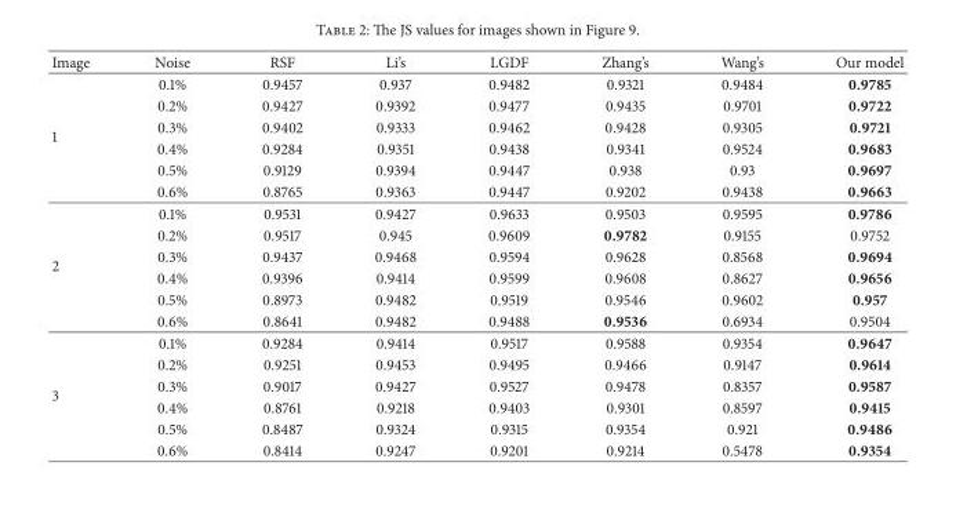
<table><thead><tr><td>Image</td><td>Noise</td><td>RSF</td><td>Li’s</td><td>LGDF</td><td>Zhang’s</td><td>Wang’s</td><td>Our model</td></tr></thead><tbody><tr><td rowspan="6">1</td><td>0.1%</td><td>0.9457</td><td>0.937</td><td>0.9482</td><td>0.9321</td><td>0.9484</td><td>0.9785</td></tr><tr><td>0.2%</td><td>0.9427</td><td>0.9392</td><td>0.9477</td><td>0.9435</td><td>0.9701</td><td>0.9722</td></tr><tr><td>0.3%</td><td>0.9402</td><td>0.9333</td><td>0.9462</td><td>0.9428</td><td>0.9305</td><td>0.9721</td></tr><tr><td>0.4%</td><td>0.9284</td><td>0.9351</td><td>0.9438</td><td>0.9341</td><td>0.9524</td><td>0.9683</td></tr><tr><td>0.5%</td><td>0.9129</td><td>0.9394</td><td>0.9447</td><td>0.938</td><td>0.93</td><td>0.9697</td></tr><tr><td>0.6%</td><td>0.8765</td><td>0.9363</td><td>0.9447</td><td>0.9202</td><td>0.9438</td><td>0.9663</td></tr><tr><td rowspan="6">2</td><td>0.1%</td><td>0.9531</td><td>0.9427</td><td>0.9633</td><td>0.9503</td><td>0.9595</td><td>0.9786</td></tr><tr><td>0.2%</td><td>0.9517</td><td>0.945</td><td>0.9609</td><td>0.9782</td><td>0.9155</td><td>0.9752</td></tr><tr><td>0.3%</td><td>0.9437</td><td>0.9468</td><td>0.9594</td><td>0.9628</td><td>0.8568</td><td>0.9694</td></tr><tr><td>0.4%</td><td>0.9396</td><td>0.9414</td><td>0.9599</td><td>0.9608</td><td>0.8627</td><td>0.9656</td></tr><tr><td>0.5%</td><td>0.8973</td><td>0.9482</td><td>0.9519</td><td>0.9546</td><td>0.9602</td><td>0.957</td></tr><tr><td>0.6%</td><td>0.8641</td><td>0.9482</td><td>0.9488</td><td>0.9536</td><td>0.6934</td><td>0.9504</td></tr><tr><td rowspan="6">3</td><td>0.1%</td><td>0.9284</td><td>0.9414</td><td>0.9517</td><td>0.9588</td><td>0.9354</td><td>0.9647</td></tr><tr><td>0.2%</td><td>0.9251</td><td>0.9453</td><td>0.9495</td><td>0.9466</td><td>0.9147</td><td>0.9614</td></tr><tr><td>0.3%</td><td>0.9017</td><td>0.9427</td><td>0.9527</td><td>0.9478</td><td>0.8357</td><td>0.9587</td></tr><tr><td>0.4%</td><td>0.8761</td><td>0.9218</td><td>0.9403</td><td>0.9301</td><td>0.8597</td><td>0.9415</td></tr><tr><td>0.5%</td><td>0.8487</td><td>0.9324</td><td>0.9315</td><td>0.9354</td><td>0.921</td><td>0.9486</td></tr><tr><td>0.6%</td><td>0.8414</td><td>0.9247</td><td>0.9201</td><td>0.9214</td><td>0.5478</td><td>0.9354</td></tr></tbody></table>